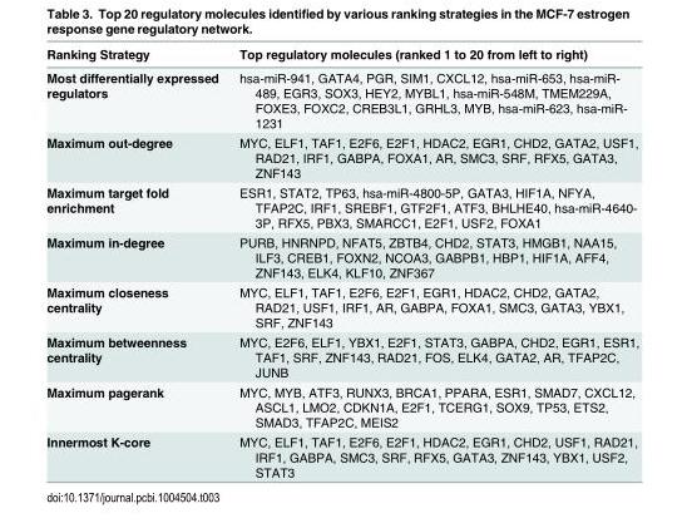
<table><thead><tr><td>Ranking Strategy</td><td>Top regulatory molecules (ranked 1 to 20 from left to right)</td></tr></thead><tbody><tr><td>Most differentially expressed regulators</td><td>hsa-miR-941, GATA4, PGR, SIM1, CXCL12, hsa-miR-653, hsa-miR- 489, EGR3, SOX3, HEY2, MYBL1, hsa-miR-548M, TMEM229A, FOXE3, FOXC2, CREB3L1, GRHL3, MYB, hsa-miR-623, hsa-miR- 1231</td></tr><tr><td>Maximum out-degree</td><td>MYC, ELF1, TAF1, E2F6, E2F1, HDAC2, EGR1, CHD2, GATA2, USF1, RAD21, IRF1, GABPA, FOXA1, AR, SMC3, SRF, RFX5, GATA3, ZNF143</td></tr><tr><td>Maximum target fold enrichment</td><td>ESR1, STAT2, TP63, hsa-miR-4800-5P, GATA3, HIF1A, NFYA, TFAP2C, IRF1, SREBF1, GTF2F1, ATF3, BHLHE40, hsa-miR-4640- 3P, RFX5, PBX3, SMARCC1, E2F1, USF2, FOXA1</td></tr><tr><td>Maximum in-degree</td><td>PURB, HNRNPD, NFAT5, ZBTB4, CHD2, STAT3, HMGB1, NAA15, ILF3, CREB1, FOXN2, NCOA3, GABPB1, HBP1, HIF1A, AFF4, ZNF143, ELK4, KLF10, ZNF367</td></tr><tr><td>Maximum closeness centrality</td><td>MYC, ELF1, TAF1, E2F6, E2F1, EGR1, HDAC2, CHD2, GATA2, RAD21, USF1, IRF1, AR, GABPA, FOXA1, SMC3, GATA3, YBX1, SRF, ZNF143</td></tr><tr><td>Maximum betweenness centrality</td><td>MYC, E2F6, ELF1, YBX1, E2F1, STAT3, GABPA, CHD2, EGR1, ESR1, TAF1, SRF, ZNF143, RAD21, FOS, ELK4, GATA2, AR, TFAP2C, JUNB</td></tr><tr><td>Maximum pagerank</td><td>MYC, MYB, ATF3, RUNX3, BRCA1, PPARA, ESR1, SMAD7, CXCL12, ASCL1, LMO2, CDKN1A, E2F1, TCERG1, SOX9, TP53, ETS2, SMAD3, TFAP2C, MEIS2</td></tr><tr><td>Innermost K-core</td><td>MYC, ELF1, TAF1, E2F6, E2F1, HDAC2, EGR1, CHD2, USF1, RAD21, IRF1, GABPA, SMC3, SRF, RFX5, GATA3, ZNF143, YBX1, USF2, STAT3</td></tr></tbody></table>